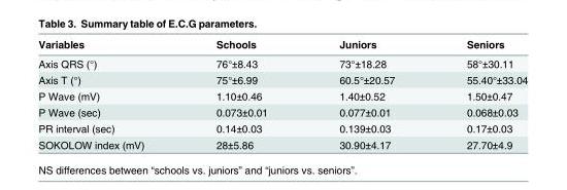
<table><thead><tr><td>Variables</td><td>Schools</td><td>Juniors</td><td>Seniors</td></tr></thead><tbody><tr><td>Axis QRS (°)</td><td>76°±8.43</td><td>73°±18.28</td><td>58°±30.11</td></tr><tr><td>Axis T (°)</td><td>75°±6.99</td><td>60.5°±20.57</td><td>55.40°±33.04</td></tr><tr><td>P Wave (mV)</td><td>1.10±0.46</td><td>1.40±0.52</td><td>1.50±0.47</td></tr><tr><td>P Wave (sec)</td><td>0.073±0.01</td><td>0.077±0.01</td><td>0.068±0.03</td></tr><tr><td>PR interval (sec)</td><td>0.14±0.03</td><td>0.139±0.03</td><td>0.17±0.03</td></tr><tr><td>SOKOLOW index (mV)</td><td>28±5.86</td><td>30.90±4.17</td><td>27.70±4.9</td></tr></tbody></table>